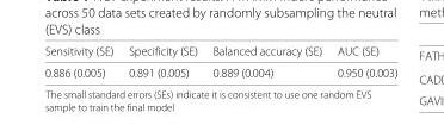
<table><thead><tr><td>Sensitivity (SE)</td><td>Specificity (SE)</td><td>Balanced accuracy (SE)</td><td>AUC (SE)</td></tr></thead><tbody><tr><td>0.886 (0.005)</td><td>0.891 (0.005)</td><td>0.889 (0.004)</td><td>0.950 (0.003)</td></tr></tbody></table>